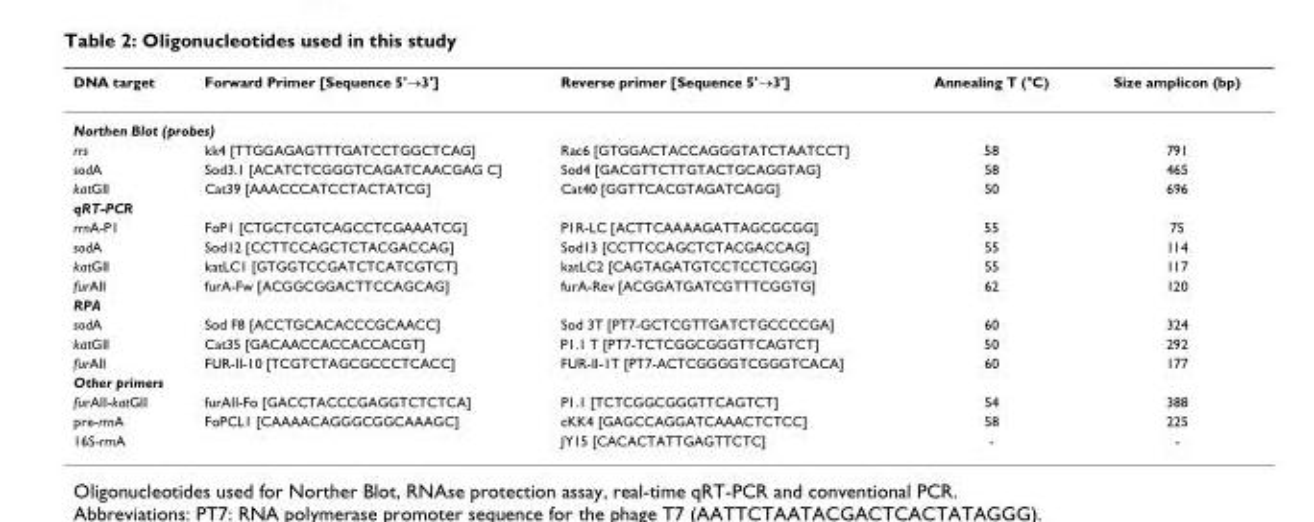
<table><thead><tr><td>DNA target</td><td>Forward Primer [Sequence 5&#x27;→3&#x27;]</td><td>Reverse primer [Sequence 5&#x27;→3&#x27;]</td><td>Annealing T (°C)</td><td>Size amplicon (bp)</td></tr></thead><tbody><tr><td colspan="5">Northen Blot (probes)</td></tr><tr><td>rrs</td><td>kk4 [TTGGAGAGTTTGATCCTGGCTCAG]</td><td>Rac6 [GTGGACTACCAGGGTATCTAATCCT]</td><td>58</td><td>791</td></tr><tr><td>sodA</td><td>Sod3.1 [ACATCTCGGGTCAGATCAACGAG C]</td><td>Sod4 [GACGTTCTTGTACTGCAGGTAG]</td><td>58</td><td>465</td></tr><tr><td>katGII</td><td>Cat39 [AAACCCATCCTACTATCG]</td><td>Cat40 [GGTTCACGTAGATCAGG]</td><td>50</td><td>696</td></tr><tr><td colspan="5">qRT-PCR</td></tr><tr><td>rrnA-P1</td><td>FoP1 [CTGCTCGTCAGCCTCGAAATCG]</td><td>P1R-LC [ACTTCAAAAGATTAGCGCGG]</td><td>55</td><td>75</td></tr><tr><td>sodA</td><td>Sod12 [CCTTCCAGCTCTACGACCAG]</td><td>Sod13 [CCTTCCAGCTCTACGACCAG]</td><td>55</td><td>114</td></tr><tr><td>katGII</td><td>katLC1 [GTGGTCCGATCTCATCGTCT]</td><td>katLC2 [CAGTAGATGTCCTCCTCGGG]</td><td>55</td><td>117</td></tr><tr><td>furAII</td><td>furA-Fw [ACGGCGGACTTCCAGCAG]</td><td>furA-Rev [ACGGATGATCGTTTCGGTG]</td><td>62</td><td>120</td></tr><tr><td colspan="5">RPA</td></tr><tr><td>sodA</td><td>Sod F8 [ACCTGCACACCCGCAACC]</td><td>Sod 3T [PT7-GCTCGTTGATCTGCCCCGA]</td><td>60</td><td>324</td></tr><tr><td>katGII</td><td>Cat35 [GACAACCACCACCACGT]</td><td>P1.1 T [PT7-TCTCGGCGGGTTCAGTCT]</td><td>50</td><td>292</td></tr><tr><td>furAII</td><td>FUR-II-10 [TCGTCTAGCGCCCTCACC]</td><td>FUR-II-1T [PT7-ACTCGGGGTCGGGTCACA]</td><td>60</td><td>177</td></tr><tr><td colspan="5">Other primers</td></tr><tr><td>furAII-katGII</td><td>furAII-Fo [GACCTACCCGAGGTCTCTCA]</td><td>P1.1 [TCTCGGCGGGTTCAGTCT]</td><td>54</td><td>388</td></tr><tr><td>pre-rrnA</td><td>FoPCL1 [CAAAACAGGGCGGCAAAGC]</td><td>cKK4 [GAGCCAGGATCAAACTCTCC]</td><td>58</td><td>225</td></tr><tr><td>16S-rrnA</td><td></td><td>JY15 [CACACTATTGAGTTCTC]</td><td>-</td><td>-</td></tr></tbody></table>